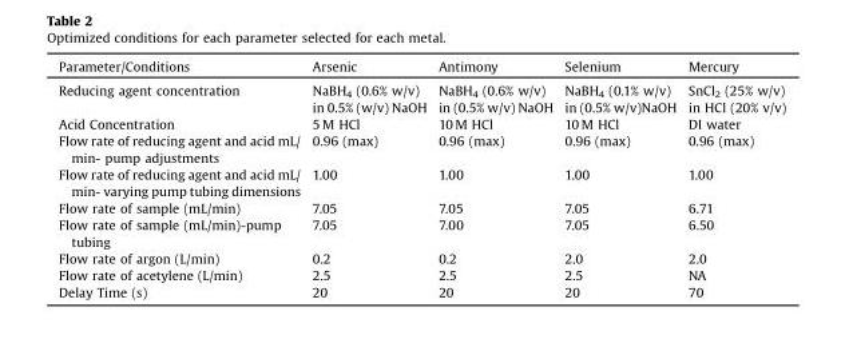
<table><thead><tr><td>Parameter/Conditions</td><td>Arsenic</td><td>Antimony</td><td>Selenium</td><td>Mercury</td></tr></thead><tbody><tr><td>Reducing agent concentration</td><td>NaBH<sub>4</sub> (0.6% w/v) in 0.5% (w/v) NaOH</td><td>NaBH<sub>4</sub> (0.6% w/v) in (0.5% w/v) NaOH</td><td>NaBH<sub>4</sub> (0.1% w/v) in (0.5% w/v)NaOH</td><td>SnCl<sub>2</sub> (25% w/v) in HCl (20% v/v)</td></tr><tr><td>Acid Concentration</td><td>5 M HCl</td><td>10 M HCl</td><td>10 M HCl</td><td>DI water</td></tr><tr><td>Flow rate of reducing agent and acid mL/ min- pump adjustments</td><td>0.96 (max)</td><td>0.96 (max)</td><td>0.96 (max)</td><td>0.96 (max)</td></tr><tr><td>Flow rate of reducing agent and acid mL/ min- varying pump tubing dimensions</td><td>1.00</td><td>1.00</td><td>1.00</td><td>1.00</td></tr><tr><td>Flow rate of sample (mL/min)</td><td>7.05</td><td>7.05</td><td>7.05</td><td>6.71</td></tr><tr><td>Flow rate of sample (mL/min)-pump tubing</td><td>7.05</td><td>7.00</td><td>7.05</td><td>6.50</td></tr><tr><td>Flow rate of argon (L/min)</td><td>0.2</td><td>0.2</td><td>2.0</td><td>2.0</td></tr><tr><td>Flow rate of acetylene (L/min)</td><td>2.5</td><td>2.5</td><td>2.5</td><td>NA</td></tr><tr><td>Delay Time (s)</td><td>20</td><td>20</td><td>20</td><td>70</td></tr></tbody></table>